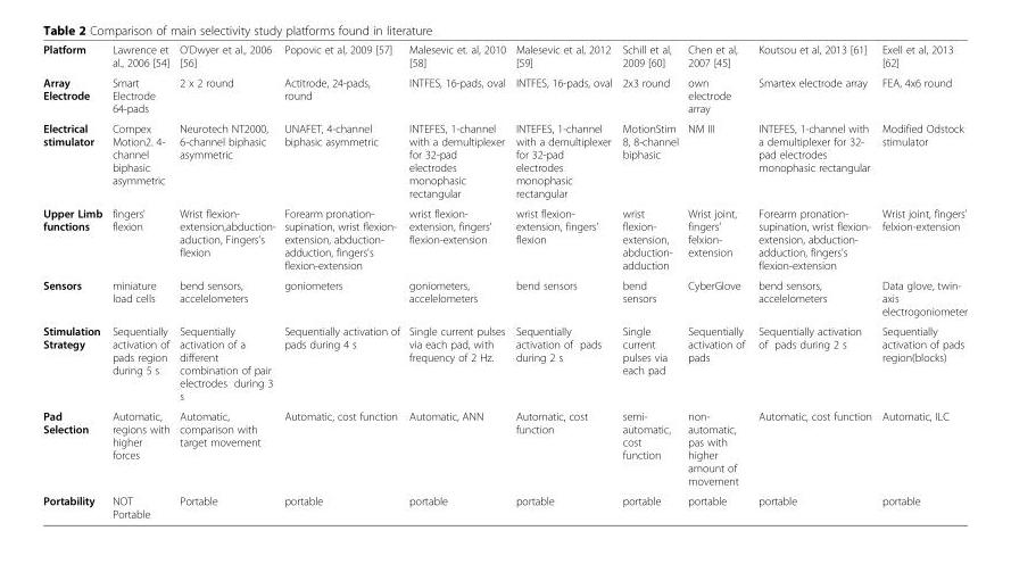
<table><tbody><tr><td>Platform</td><td>Lawrence et al., 2006 [54]</td><td>O&#x27;Dwyer et al., 2006 [56]</td><td>Popovic et al, 2009 [57]</td><td>Malesevic et. al, 2010 [58]</td><td>Malesevic et al, 2012 [59]</td><td>Schill et al, 2009 [60]</td><td>Chen et al, 2007 [45]</td><td>Koutsou et al, 2013 [61]</td><td>Exell et al, 2013 [62]</td></tr><tr><td>Array Electrode</td><td>Smart Electrode 64-pads</td><td>2 x 2 round</td><td>Actitrode, 24-pads, round</td><td>INTFES, 16-pads, oval</td><td>INTFES, 16-pads, oval</td><td>2x3 round</td><td>own electrode array</td><td>Smartex electrode array</td><td>FEA, 4x6 round</td></tr><tr><td>Electrical stimulator</td><td>Compex Motion2. 4- channel biphasic asymmetric</td><td>Neurotech NT2000, 6-channel biphasic asymmetric</td><td>UNAFET, 4-channel biphasic asymmetric</td><td>INTEFES, 1-channel with a demultiplexer for 32-pad electrodes monophasic rectangular</td><td>INTEFES, 1-channel with a demultiplexer for 32-pad electrodes monophasic rectangular</td><td>MotionStim 8, 8-channel biphasic</td><td>NM III</td><td>INTEFES, 1-channel with a demultiplexer for 32- pad electrodes monophasic rectangular</td><td>Modified Odstock stimulator</td></tr><tr><td>Upper Limb functions</td><td>fingers&#x27; flexion</td><td>Wrist flexion- extension,abduction- aduction, Fingers&#x27;s flexion</td><td>Forearm pronation- supination, wrist flexion- extension, abduction- adduction, fingers&#x27;s flexion-extension</td><td>wrist flexion- extension, fingers&#x27; flexion-extension</td><td>wrist flexion- extension, fingers&#x27; flexion</td><td>wrist flexion- extension, abduction- adduction</td><td>Wrist joint, fingers&#x27; felxion- extension</td><td>Forearm pronation- supination, wrist flexion- extension, abduction- adduction, fingers&#x27;s flexion-extension</td><td>Wrist joint, fingers&#x27; felxion-extension</td></tr><tr><td>Sensors</td><td>miniature load cells</td><td>bend sensors, accelelometers</td><td>goniometers</td><td>goniometers, accelelometers</td><td>bend sensors</td><td>bend sensors</td><td>CyberGlove</td><td>bend sensors, accelelometers</td><td>Data glove, twin- axis electrogoniometer</td></tr><tr><td>Stimulation Strategy</td><td>Sequentially activation of pads region during 5 s</td><td>Sequentially activation of a different combination of pair electrodes during 3 s</td><td>Sequentially activation of pads during 4 s</td><td>Single current pulses via each pad, with frequency of 2 Hz.</td><td>Sequentially activation of pads during 2 s</td><td>Single current pulses via each pad</td><td>Sequentially activation of pads</td><td>Sequentially activation of pads during 2 s</td><td>Sequentially activation of pads region(blocks)</td></tr><tr><td>Pad Selection</td><td>Automatic, regions with higher forces</td><td>Automatic, comparison with target movement</td><td>Automatic, cost function</td><td>Automatic, ANN</td><td>Automatic, cost function</td><td>semi- automatic, cost function</td><td>non- automatic, pas with higher amount of movement</td><td>Automatic, cost function</td><td>Automatic, ILC</td></tr><tr><td>Portability</td><td>NOT Portable</td><td>Portable</td><td>portable</td><td>portable</td><td>portable</td><td>portable</td><td>portable</td><td>portable</td><td>portable</td></tr></tbody></table>